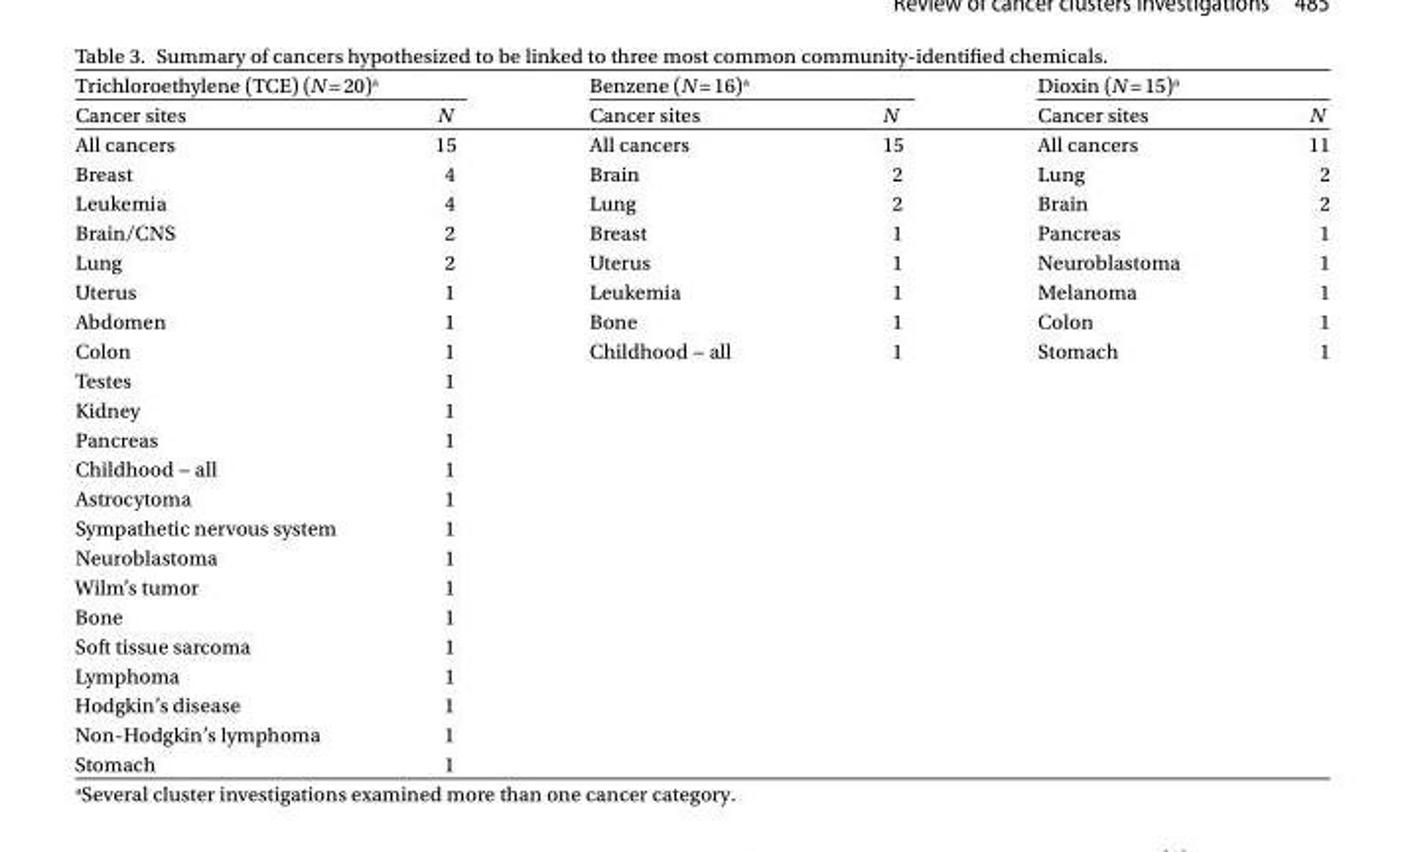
<table><thead><tr><td colspan="2">Trichloroethylene (TCE) (N = 20)<sup>a</sup></td><td colspan="2">Benzene (N = 16)<sup>a</sup></td><td colspan="2">Dioxin (N = 15)<sup>a</sup></td></tr><tr><td>Cancer sites</td><td>N</td><td>Cancer sites</td><td>N</td><td>Cancer sites</td><td>N</td></tr></thead><tbody><tr><td>All cancers</td><td>15</td><td>All cancers</td><td>15</td><td>All cancers</td><td>11</td></tr><tr><td>Breast</td><td>4</td><td>Brain</td><td>2</td><td>Lung</td><td>2</td></tr><tr><td>Leukemia</td><td>4</td><td>Lung</td><td>2</td><td>Brain</td><td>2</td></tr><tr><td>Brain/CNS</td><td>2</td><td>Breast</td><td>1</td><td>Pancreas</td><td>1</td></tr><tr><td>Lung</td><td>2</td><td>Uterus</td><td>1</td><td>Neuroblastoma</td><td>1</td></tr><tr><td>Uterus</td><td>1</td><td>Leukemia</td><td>1</td><td>Melanoma</td><td>1</td></tr><tr><td>Abdomen</td><td>1</td><td>Bone</td><td>1</td><td>Colon</td><td>1</td></tr><tr><td>Colon</td><td>1</td><td>Childhood − all</td><td>1</td><td>Stomach</td><td>1</td></tr><tr><td>Testes</td><td>1</td><td></td><td></td><td></td><td></td></tr><tr><td>Kidney</td><td>1</td><td></td><td></td><td></td><td></td></tr><tr><td>Pancreas</td><td>1</td><td></td><td></td><td></td><td></td></tr><tr><td>Childhood − all</td><td>1</td><td></td><td></td><td></td><td></td></tr><tr><td>Astrocytoma</td><td>1</td><td></td><td></td><td></td><td></td></tr><tr><td>Sympathetic nervous system</td><td>1</td><td></td><td></td><td></td><td></td></tr><tr><td>Neuroblastoma</td><td>1</td><td></td><td></td><td></td><td></td></tr><tr><td>Wilm’s tumor</td><td>1</td><td></td><td></td><td></td><td></td></tr><tr><td>Bone</td><td>1</td><td></td><td></td><td></td><td></td></tr><tr><td>Soft tissue sarcoma</td><td>1</td><td></td><td></td><td></td><td></td></tr><tr><td>Lymphoma</td><td>1</td><td></td><td></td><td></td><td></td></tr><tr><td>Hodgkin’s disease</td><td>1</td><td></td><td></td><td></td><td></td></tr><tr><td>Non-Hodgkin’s lymphoma</td><td>1</td><td></td><td></td><td></td><td></td></tr><tr><td>Stomach</td><td>1</td><td></td><td></td><td></td><td></td></tr></tbody></table>